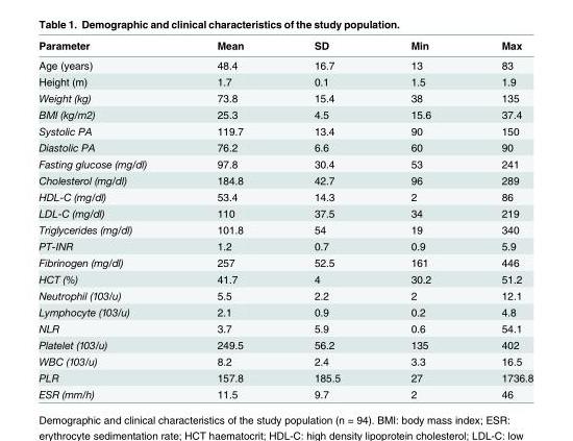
<table><thead><tr><td>Parameter</td><td>Mean</td><td>SD</td><td>Min</td><td>Max</td></tr></thead><tbody><tr><td>Age (years)</td><td>48.4</td><td>16.7</td><td>13</td><td>83</td></tr><tr><td>Height (m)</td><td>1.7</td><td>0.1</td><td>1.5</td><td>1.9</td></tr><tr><td>Weight (kg)</td><td>73.8</td><td>15.4</td><td>38</td><td>135</td></tr><tr><td>BMI (kg/m2)</td><td>25.3</td><td>4.5</td><td>15.6</td><td>37.4</td></tr><tr><td>Systolic PA</td><td>119.7</td><td>13.4</td><td>90</td><td>150</td></tr><tr><td>Diastolic PA</td><td>76.2</td><td>6.6</td><td>60</td><td>90</td></tr><tr><td>Fasting glucose (mg/dl)</td><td>97.8</td><td>30.4</td><td>53</td><td>241</td></tr><tr><td>Cholesterol (mg/dl)</td><td>184.8</td><td>42.7</td><td>96</td><td>289</td></tr><tr><td>HDL-C (mg/dl)</td><td>53.4</td><td>14.3</td><td>2</td><td>86</td></tr><tr><td>LDL-C (mg/dl)</td><td>110</td><td>37.5</td><td>34</td><td>219</td></tr><tr><td>Triglycerides (mg/dl)</td><td>101.8</td><td>54</td><td>19</td><td>340</td></tr><tr><td>PT-INR</td><td>1.2</td><td>0.7</td><td>0.9</td><td>5.9</td></tr><tr><td>Fibrinogen (mg/dl)</td><td>257</td><td>52.5</td><td>161</td><td>446</td></tr><tr><td>HCT (%)</td><td>41.7</td><td>4</td><td>30.2</td><td>51.2</td></tr><tr><td>Neutrophil (103/u)</td><td>5.5</td><td>2.2</td><td>2</td><td>12.1</td></tr><tr><td>Lymphocyte (103/u)</td><td>2.1</td><td>0.9</td><td>0.2</td><td>4.8</td></tr><tr><td>NLR</td><td>3.7</td><td>5.9</td><td>0.6</td><td>54.1</td></tr><tr><td>Platelet (103/u)</td><td>249.5</td><td>56.2</td><td>135</td><td>402</td></tr><tr><td>WBC (103/u)</td><td>8.2</td><td>2.4</td><td>3.3</td><td>16.5</td></tr><tr><td>PLR</td><td>157.8</td><td>185.5</td><td>27</td><td>1736.8</td></tr><tr><td>ESR (mm/h)</td><td>11.5</td><td>9.7</td><td>2</td><td>46</td></tr></tbody></table>